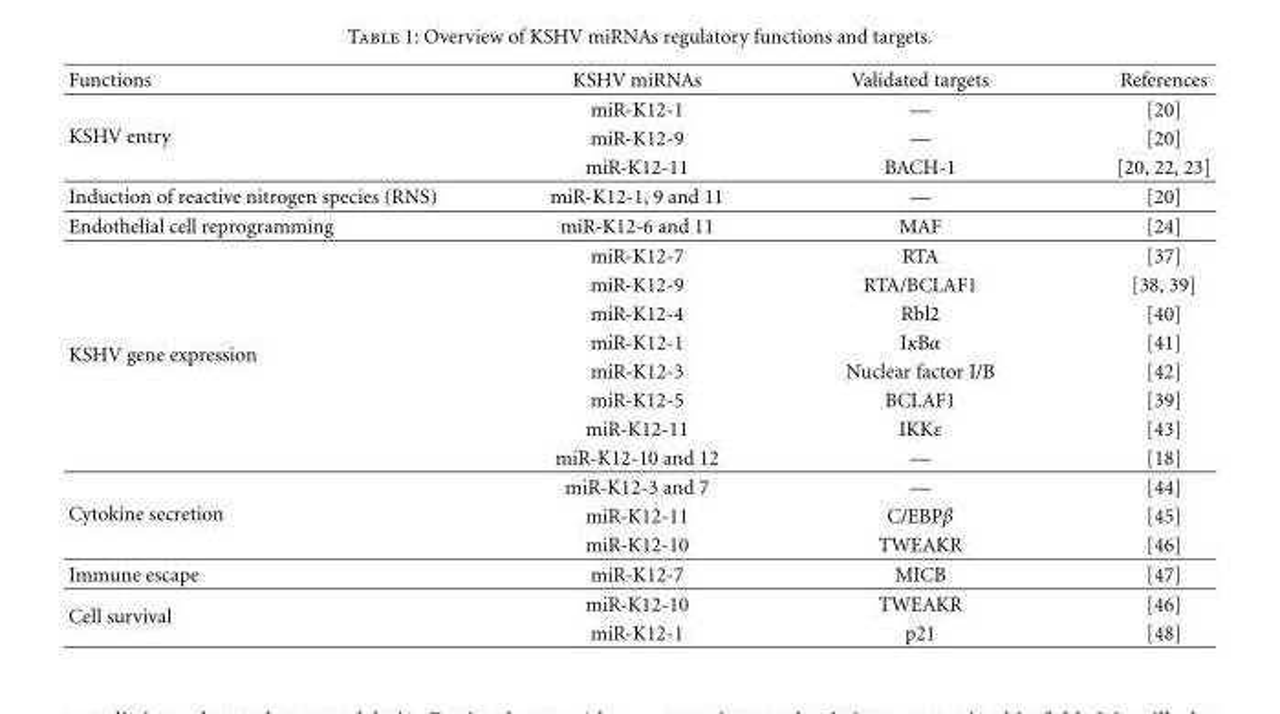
<table><thead><tr><td>Functions</td><td>KSHV miRNAs</td><td>Validated targets</td><td>References</td></tr></thead><tbody><tr><td rowspan="3">KSHV entry</td><td>miR-K12-1</td><td>—</td><td>[20]</td></tr><tr><td>miR-K12-9</td><td>—</td><td>[20]</td></tr><tr><td>miR-K12-11</td><td>BACH-1</td><td>[20, 22, 23]</td></tr><tr><td>Induction of reactive nitrogen species (RNS)</td><td>miR-K12-1, 9 and 11</td><td>—</td><td>[20]</td></tr><tr><td>Endothelial cell reprogramming</td><td>miR-K12-6 and 11</td><td>MAF</td><td>[24]</td></tr><tr><td rowspan="8">KSHV gene expression</td><td>miR-K12-7</td><td>RTA</td><td>[37]</td></tr><tr><td>miR-K12-9</td><td>RTA/BCLAF1</td><td>[38, 39]</td></tr><tr><td>miR-K12-4</td><td>Rbl2</td><td>[40]</td></tr><tr><td>miR-K12-1</td><td>IκBα</td><td>[41]</td></tr><tr><td>miR-K12-3</td><td>Nuclear factor I/B</td><td>[42]</td></tr><tr><td>miR-K12-5</td><td>BCLAF1</td><td>[39]</td></tr><tr><td>miR-K12-11</td><td>IKKε</td><td>[43]</td></tr><tr><td>miR-K12-10 and 12</td><td>—</td><td>[18]</td></tr><tr><td rowspan="3">Cytokine secretion</td><td>miR-K12-3 and 7</td><td>—</td><td>[44]</td></tr><tr><td>miR-K12-11</td><td>C/EBPβ</td><td>[45]</td></tr><tr><td>miR-K12-10</td><td>TWEAKR</td><td>[46]</td></tr><tr><td>Immune escape</td><td>miR-K12-7</td><td>MICB</td><td>[47]</td></tr><tr><td rowspan="2">Cell survival</td><td>miR-K12-10</td><td>TWEAKR</td><td>[46]</td></tr><tr><td>miR-K12-1</td><td>p21</td><td>[48]</td></tr></tbody></table>